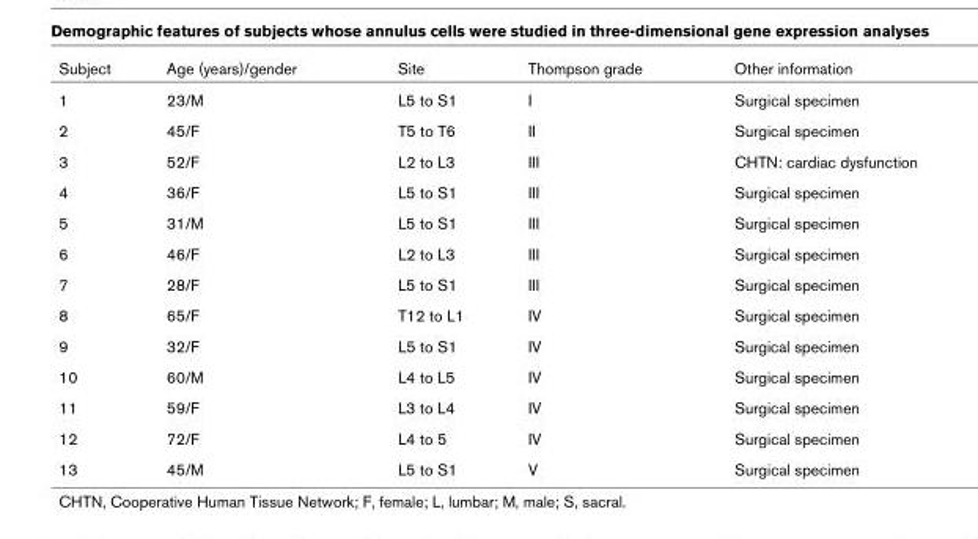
<table><thead><tr><td>Subject</td><td>Age (years)/gender</td><td>Site</td><td>Thompson grade</td><td>Other information</td></tr></thead><tbody><tr><td>1</td><td>23/M</td><td>L5 to S1</td><td>I</td><td>Surgical specimen</td></tr><tr><td>2</td><td>45/F</td><td>T5 to T6</td><td>II</td><td>Surgical specimen</td></tr><tr><td>3</td><td>52/F</td><td>L2 to L3</td><td>III</td><td>CHTN: cardiac dysfunction</td></tr><tr><td>4</td><td>36/F</td><td>L5 to S1</td><td>III</td><td>Surgical specimen</td></tr><tr><td>5</td><td>31/M</td><td>L5 to S1</td><td>III</td><td>Surgical specimen</td></tr><tr><td>6</td><td>46/F</td><td>L2 to L3</td><td>III</td><td>Surgical specimen</td></tr><tr><td>7</td><td>28/F</td><td>L5 to S1</td><td>III</td><td>Surgical specimen</td></tr><tr><td>8</td><td>65/F</td><td>T12 to L1</td><td>IV</td><td>Surgical specimen</td></tr><tr><td>9</td><td>32/F</td><td>L5 to S1</td><td>IV</td><td>Surgical specimen</td></tr><tr><td>10</td><td>60/M</td><td>L4 to L5</td><td>IV</td><td>Surgical specimen</td></tr><tr><td>11</td><td>59/F</td><td>L3 to L4</td><td>IV</td><td>Surgical specimen</td></tr><tr><td>12</td><td>72/F</td><td>L4 to 5</td><td>IV</td><td>Surgical specimen</td></tr><tr><td>13</td><td>45/M</td><td>L5 to S1</td><td>V</td><td>Surgical specimen</td></tr></tbody></table>